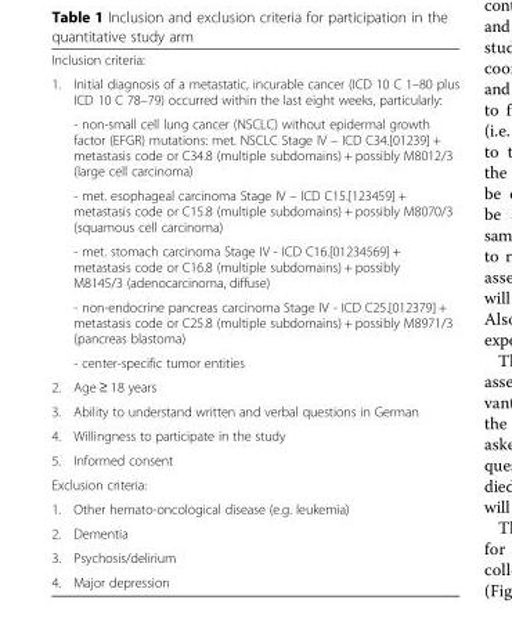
<table><tbody><tr><td colspan="2">Inclusion criteria:</td></tr><tr><td rowspan="6">1.</td><td>Initial diagnosis of a metastatic, incurable cancer (ICD 10 C 1–80 plus ICD 10 C 78–79) occurred within the last eight weeks, particularly:</td></tr><tr><td>- non-small cell lung cancer (NSCLC) without epidermal growth factor (EFGR) mutations: met. NSCLC Stage IV – ICD C34.[01239] + metastasis code or C34.8 (multiple subdomains) + possibly M8012/3 (large cell carcinoma)</td></tr><tr><td>- met. esophageal carcinoma Stage IV – ICD C15.[123459] + metastasis code or C15.8 (multiple subdomains) + possibly M8070/3 (squamous cell carcinoma)</td></tr><tr><td>- met. stomach carcinoma Stage IV - ICD C16.[01234569] + metastasis code or C16.8 (multiple subdomains) + possibly M8145/3 (adenocarcinoma, diffuse)</td></tr><tr><td>- non-endocrine pancreas carcinoma Stage IV - ICD C25.[012379] + metastasis code or C25.8 (multiple subdomains) + possibly M8971/3 (pancreas blastoma)</td></tr><tr><td>- center-specific tumor entities</td></tr><tr><td>2.</td><td>Age ≥ 18 years</td></tr><tr><td>3.</td><td>Ability to understand written and verbal questions in German</td></tr><tr><td>4.</td><td>Willingness to participate in the study</td></tr><tr><td>5.</td><td>Informed consent</td></tr><tr><td colspan="2">Exclusion criteria:</td></tr><tr><td>1.</td><td>Other hemato-oncological disease (e.g. leukemia)</td></tr><tr><td>2.</td><td>Dementia</td></tr><tr><td>3.</td><td>Psychosis/delirium</td></tr><tr><td>4.</td><td>Major depression</td></tr></tbody></table>